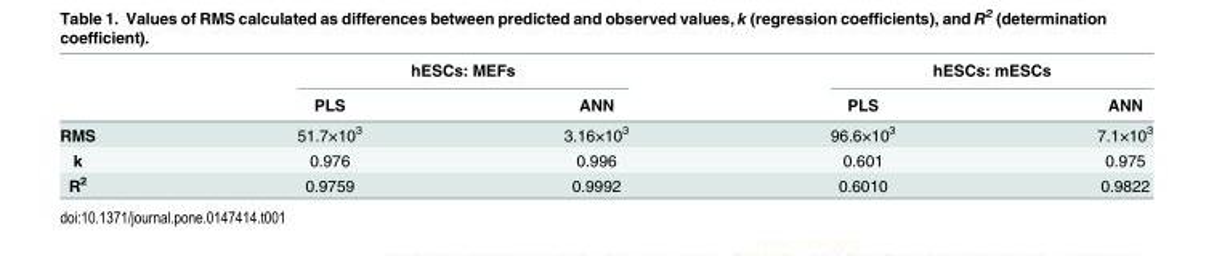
<table><thead><tr><td rowspan="2"></td><td colspan="2">hESCs: MEFs</td><td colspan="2">hESCs: mESCs</td></tr><tr><td>PLS</td><td>ANN</td><td>PLS</td><td>ANN</td></tr></thead><tbody><tr><td>RMS</td><td>51.7×10<sup>3</sup></td><td>3.16×10<sup>3</sup></td><td>96.6×10<sup>3</sup></td><td>7.1×10<sup>3</sup></td></tr><tr><td>k</td><td>0.976</td><td>0.996</td><td>0.601</td><td>0.975</td></tr><tr><td>R<sup>2</sup></td><td>0.9759</td><td>0.9992</td><td>0.6010</td><td>0.9822</td></tr></tbody></table>